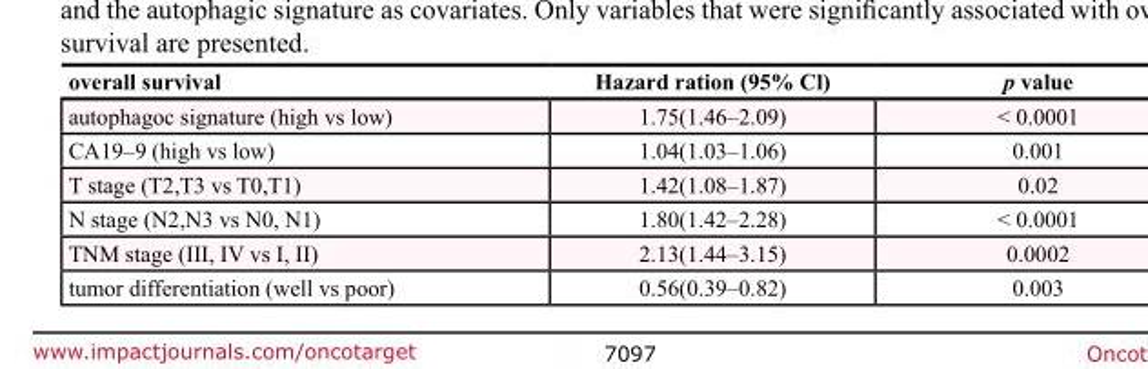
<table><thead><tr><td>overall survival</td><td>Hazard ration (95% Cl)</td><td>p value</td></tr></thead><tbody><tr><td>autophagoc signature (high vs low)</td><td>1.75(1.46–2.09)</td><td>&lt; 0.0001</td></tr><tr><td>CA19–9 (high vs low)</td><td>1.04(1.03–1.06)</td><td>0.001</td></tr><tr><td>T stage (T2,T3 vs T0,T1)</td><td>1.42(1.08–1.87)</td><td>0.02</td></tr><tr><td>N stage (N2,N3 vs N0, N1)</td><td>1.80(1.42–2.28)</td><td>&lt; 0.0001</td></tr><tr><td>TNM stage (III, IV vs I, II)</td><td>2.13(1.44–3.15)</td><td>0.0002</td></tr><tr><td>tumor differentiation (well vs poor)</td><td>0.56(0.39–0.82)</td><td>0.003</td></tr></tbody></table>